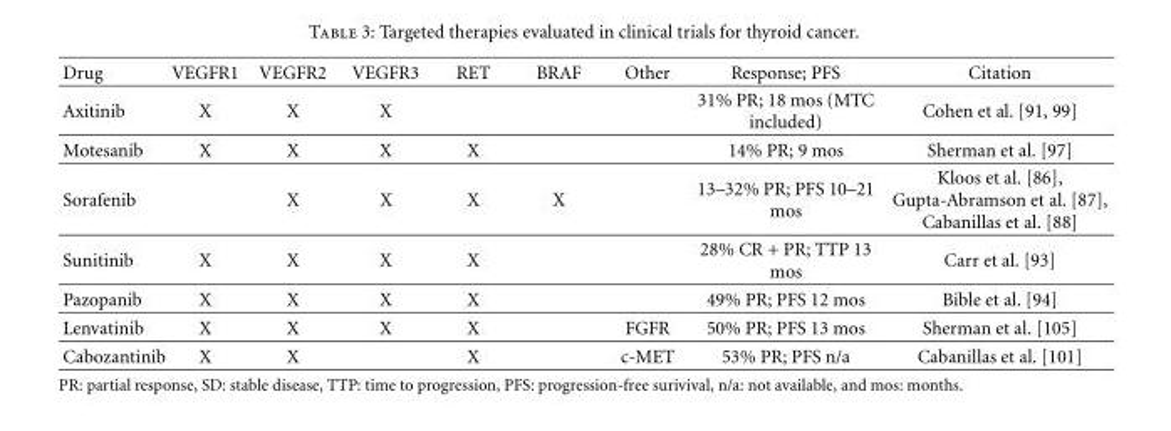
<table><thead><tr><td>Drug</td><td>VEGFR1</td><td>VEGFR2</td><td>VEGFR3</td><td>RET</td><td>BRAF</td><td>Other</td><td>Response; PFS</td><td>Citation</td></tr></thead><tbody><tr><td>Axitinib</td><td>X</td><td>X</td><td>X</td><td></td><td></td><td></td><td>31% PR; 18 mos (MTC included)</td><td>Cohen et al. [91, 99]</td></tr><tr><td>Motesanib</td><td>X</td><td>X</td><td>X</td><td>X</td><td></td><td></td><td>14% PR; 9 mos</td><td>Sherman et al. [97]</td></tr><tr><td>Sorafenib</td><td></td><td>X</td><td>X</td><td>X</td><td>X</td><td></td><td>13–32% PR; PFS 10–21 mos</td><td>Kloos et al. [86], Gupta-Abramson et al. [87], Cabanillas et al. [88]</td></tr><tr><td>Sunitinib</td><td>X</td><td>X</td><td>X</td><td>X</td><td></td><td></td><td>28% CR + PR; TTP 13 mos</td><td>Carr et al. [93]</td></tr><tr><td>Pazopanib</td><td>X</td><td>X</td><td>X</td><td>X</td><td></td><td></td><td>49% PR; PFS 12 mos</td><td>Bible et al. [94]</td></tr><tr><td>Lenvatinib</td><td>X</td><td>X</td><td>X</td><td>X</td><td></td><td>FGFR</td><td>50% PR; PFS 13 mos</td><td>Sherman et al. [105]</td></tr><tr><td>Cabozantinib</td><td>X</td><td>X</td><td></td><td>X</td><td></td><td>c-MET</td><td>53% PR; PFS n/a</td><td>Cabanillas et al. [101]</td></tr></tbody></table>